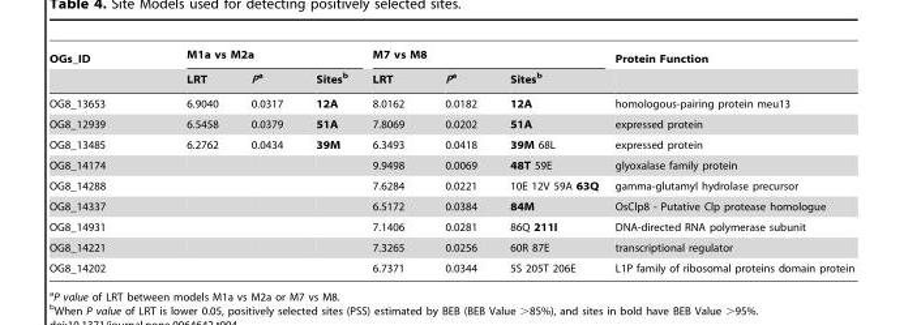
<table><thead><tr><td rowspan="2">OGs_ID</td><td colspan="3">M1a vs M2a</td><td colspan="3">M7 vs M8</td><td rowspan="2">Protein Function</td></tr><tr><td>LRT</td><td>Pa</td><td>Sites<sup>b</sup></td><td>LRT</td><td>Pa</td><td>Sites<sup>b</sup></td></tr></thead><tbody><tr><td>OG8_13653</td><td>6.9040</td><td>0.0317</td><td>12A</td><td>8.0162</td><td>0.0182</td><td>12A</td><td>homologous-pairing protein meu13</td></tr><tr><td>OG8_12939</td><td>6.5458</td><td>0.0379</td><td>51A</td><td>7.8069</td><td>0.0202</td><td>51A</td><td>expressed protein</td></tr><tr><td>OG8_13485</td><td>6.2762</td><td>0.0434</td><td>39M</td><td>6.3493</td><td>0.0418</td><td>39M 68L</td><td>expressed protein</td></tr><tr><td>OG8_14174</td><td></td><td></td><td></td><td>9.9498</td><td>0.0069</td><td>48T 59E</td><td>glyoxalase family protein</td></tr><tr><td>OG8_14288</td><td></td><td></td><td></td><td>7.6284</td><td>0.0221</td><td>10E 12V 59A 63Q</td><td>gamma-glutamyl hydrolase precursor</td></tr><tr><td>OG8_14337</td><td></td><td></td><td></td><td>6.5172</td><td>0.0384</td><td>84M</td><td>OsClp8 - Putative Clp protease homologue</td></tr><tr><td>OG8_14931</td><td></td><td></td><td></td><td>7.1406</td><td>0.0281</td><td>86Q 211I</td><td>DNA-directed RNA polymerase subunit</td></tr><tr><td>OG8_14221</td><td></td><td></td><td></td><td>7.3265</td><td>0.0256</td><td>60R 87E</td><td>transcriptional regulator</td></tr><tr><td>OG8_14202</td><td></td><td></td><td></td><td>6.7371</td><td>0.0344</td><td>5S 205T 206E</td><td>L1P family of ribosomal proteins domain protein</td></tr></tbody></table>